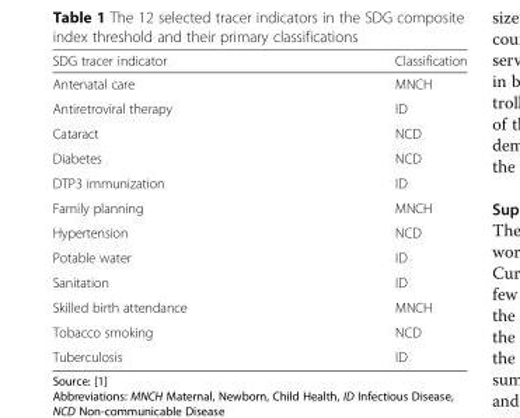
<table><thead><tr><td>SDG tracer indicator</td><td>Classification</td></tr></thead><tbody><tr><td>Antenatal care</td><td>MNCH</td></tr><tr><td>Antiretroviral therapy</td><td>ID</td></tr><tr><td>Cataract</td><td>NCD</td></tr><tr><td>Diabetes</td><td>NCD</td></tr><tr><td>DTP3 immunization</td><td>ID</td></tr><tr><td>Family planning</td><td>MNCH</td></tr><tr><td>Hypertension</td><td>NCD</td></tr><tr><td>Potable water</td><td>ID</td></tr><tr><td>Sanitation</td><td>ID</td></tr><tr><td>Skilled birth attendance</td><td>MNCH</td></tr><tr><td>Tobacco smoking</td><td>NCD</td></tr><tr><td>Tuberculosis</td><td>ID</td></tr></tbody></table>